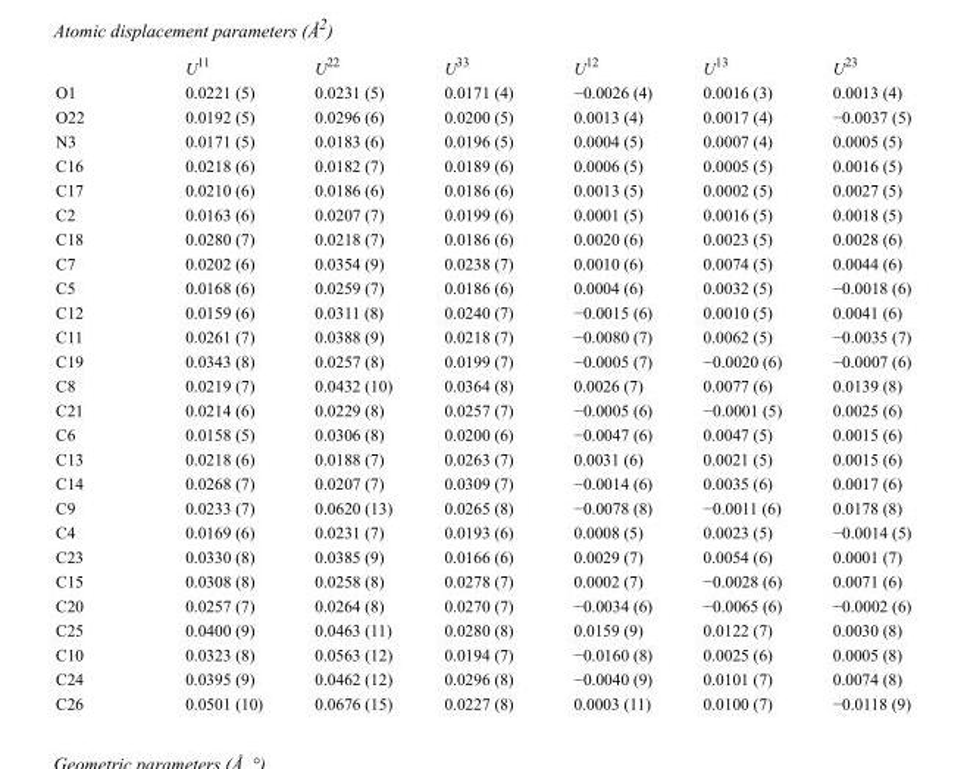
<table><thead><tr><td></td><td>U<sup>11</sup></td><td>U<sup>22</sup></td><td>U<sup>33</sup></td><td>U<sup>12</sup></td><td>U<sup>13</sup></td><td>U<sup>23</sup></td></tr></thead><tbody><tr><td>O1</td><td>0.0221 (5)</td><td>0.0231 (5)</td><td>0.0171 (4)</td><td>−0.0026 (4)</td><td>0.0016 (3)</td><td>0.0013 (4)</td></tr><tr><td>O22</td><td>0.0192 (5)</td><td>0.0296 (6)</td><td>0.0200 (5)</td><td>0.0013 (4)</td><td>0.0017 (4)</td><td>−0.0037 (5)</td></tr><tr><td>N3</td><td>0.0171 (5)</td><td>0.0183 (6)</td><td>0.0196 (5)</td><td>0.0004 (5)</td><td>0.0007 (4)</td><td>0.0005 (5)</td></tr><tr><td>C16</td><td>0.0218 (6)</td><td>0.0182 (7)</td><td>0.0189 (6)</td><td>0.0006 (5)</td><td>0.0005 (5)</td><td>0.0016 (5)</td></tr><tr><td>C17</td><td>0.0210 (6)</td><td>0.0186 (6)</td><td>0.0186 (6)</td><td>0.0013 (5)</td><td>0.0002 (5)</td><td>0.0027 (5)</td></tr><tr><td>C2</td><td>0.0163 (6)</td><td>0.0207 (7)</td><td>0.0199 (6)</td><td>0.0001 (5)</td><td>0.0016 (5)</td><td>0.0018 (5)</td></tr><tr><td>C18</td><td>0.0280 (7)</td><td>0.0218 (7)</td><td>0.0186 (6)</td><td>0.0020 (6)</td><td>0.0023 (5)</td><td>0.0028 (6)</td></tr><tr><td>C7</td><td>0.0202 (6)</td><td>0.0354 (9)</td><td>0.0238 (7)</td><td>0.0010 (6)</td><td>0.0074 (5)</td><td>0.0044 (6)</td></tr><tr><td>C5</td><td>0.0168 (6)</td><td>0.0259 (7)</td><td>0.0186 (6)</td><td>0.0004 (6)</td><td>0.0032 (5)</td><td>−0.0018 (6)</td></tr><tr><td>C12</td><td>0.0159 (6)</td><td>0.0311 (8)</td><td>0.0240 (7)</td><td>−0.0015 (6)</td><td>0.0010 (5)</td><td>0.0041 (6)</td></tr><tr><td>C11</td><td>0.0261 (7)</td><td>0.0388 (9)</td><td>0.0218 (7)</td><td>−0.0080 (7)</td><td>0.0062 (5)</td><td>−0.0035 (7)</td></tr><tr><td>C19</td><td>0.0343 (8)</td><td>0.0257 (8)</td><td>0.0199 (7)</td><td>−0.0005 (7)</td><td>−0.0020 (6)</td><td>−0.0007 (6)</td></tr><tr><td>C8</td><td>0.0219 (7)</td><td>0.0432 (10)</td><td>0.0364 (8)</td><td>0.0026 (7)</td><td>0.0077 (6)</td><td>0.0139 (8)</td></tr><tr><td>C21</td><td>0.0214 (6)</td><td>0.0229 (8)</td><td>0.0257 (7)</td><td>−0.0005 (6)</td><td>−0.0001 (5)</td><td>0.0025 (6)</td></tr><tr><td>C6</td><td>0.0158 (5)</td><td>0.0306 (8)</td><td>0.0200 (6)</td><td>−0.0047 (6)</td><td>0.0047 (5)</td><td>0.0015 (6)</td></tr><tr><td>C13</td><td>0.0218 (6)</td><td>0.0188 (7)</td><td>0.0263 (7)</td><td>0.0031 (6)</td><td>0.0021 (5)</td><td>0.0015 (6)</td></tr><tr><td>C14</td><td>0.0268 (7)</td><td>0.0207 (7)</td><td>0.0309 (7)</td><td>−0.0014 (6)</td><td>0.0035 (6)</td><td>0.0017 (6)</td></tr><tr><td>C9</td><td>0.0233 (7)</td><td>0.0620 (13)</td><td>0.0265 (8)</td><td>−0.0078 (8)</td><td>−0.0011 (6)</td><td>0.0178 (8)</td></tr><tr><td>C4</td><td>0.0169 (6)</td><td>0.0231 (7)</td><td>0.0193 (6)</td><td>0.0008 (5)</td><td>0.0023 (5)</td><td>−0.0014 (5)</td></tr><tr><td>C23</td><td>0.0330 (8)</td><td>0.0385 (9)</td><td>0.0166 (6)</td><td>0.0029 (7)</td><td>0.0054 (6)</td><td>0.0001 (7)</td></tr><tr><td>C15</td><td>0.0308 (8)</td><td>0.0258 (8)</td><td>0.0278 (7)</td><td>0.0002 (7)</td><td>−0.0028 (6)</td><td>0.0071 (6)</td></tr><tr><td>C20</td><td>0.0257 (7)</td><td>0.0264 (8)</td><td>0.0270 (7)</td><td>−0.0034 (6)</td><td>−0.0065 (6)</td><td>−0.0002 (6)</td></tr><tr><td>C25</td><td>0.0400 (9)</td><td>0.0463 (11)</td><td>0.0280 (8)</td><td>0.0159 (9)</td><td>0.0122 (7)</td><td>0.0030 (8)</td></tr><tr><td>C10</td><td>0.0323 (8)</td><td>0.0563 (12)</td><td>0.0194 (7)</td><td>−0.0160 (8)</td><td>0.0025 (6)</td><td>0.0005 (8)</td></tr><tr><td>C24</td><td>0.0395 (9)</td><td>0.0462 (12)</td><td>0.0296 (8)</td><td>−0.0040 (9)</td><td>0.0101 (7)</td><td>0.0074 (8)</td></tr><tr><td>C26</td><td>0.0501 (10)</td><td>0.0676 (15)</td><td>0.0227 (8)</td><td>0.0003 (11)</td><td>0.0100 (7)</td><td>−0.0118 (9)</td></tr></tbody></table>